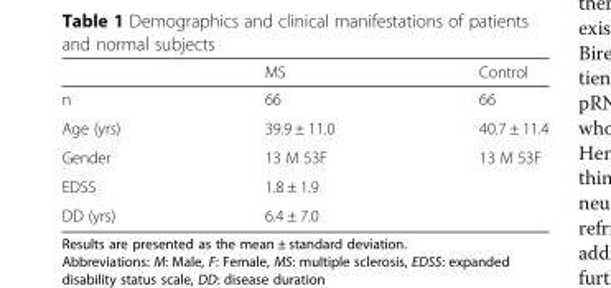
<table><thead><tr><td></td><td>MS</td><td>Control</td></tr></thead><tbody><tr><td>n</td><td>66</td><td>66</td></tr><tr><td>Age (yrs)</td><td>39.9 ± 11.0</td><td>40.7 ± 11.4</td></tr><tr><td>Gender</td><td>13 M 53F</td><td>13 M 53F</td></tr><tr><td>EDSS</td><td>1.8 ± 1.9</td><td></td></tr><tr><td>DD (yrs)</td><td>6.4 ± 7.0</td><td></td></tr></tbody></table>